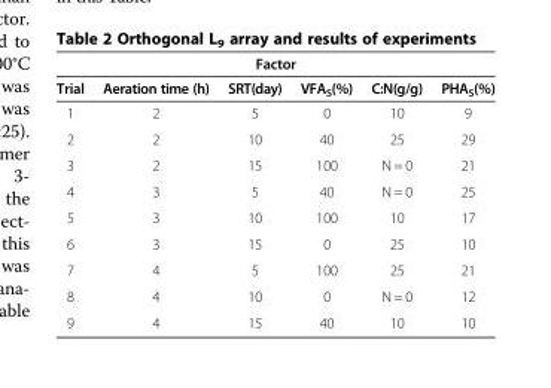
<table><thead><tr><td colspan="6">Factor</td></tr><tr><td>Trial</td><td>Aeration time (h)</td><td>SRT(day)</td><td>VFA<sub>S</sub>(%)</td><td>C:N(g/g)</td><td>PHA<sub>S</sub>(%)</td></tr></thead><tbody><tr><td>1</td><td>2</td><td>5</td><td>0</td><td>10</td><td>9</td></tr><tr><td>2</td><td>2</td><td>10</td><td>40</td><td>25</td><td>29</td></tr><tr><td>3</td><td>2</td><td>15</td><td>100</td><td>N = 0</td><td>21</td></tr><tr><td>4</td><td>3</td><td>5</td><td>40</td><td>N = 0</td><td>25</td></tr><tr><td>5</td><td>3</td><td>10</td><td>100</td><td>10</td><td>17</td></tr><tr><td>6</td><td>3</td><td>15</td><td>0</td><td>25</td><td>10</td></tr><tr><td>7</td><td>4</td><td>5</td><td>100</td><td>25</td><td>21</td></tr><tr><td>8</td><td>4</td><td>10</td><td>0</td><td>N = 0</td><td>12</td></tr><tr><td>9</td><td>4</td><td>15</td><td>40</td><td>10</td><td>10</td></tr></tbody></table>